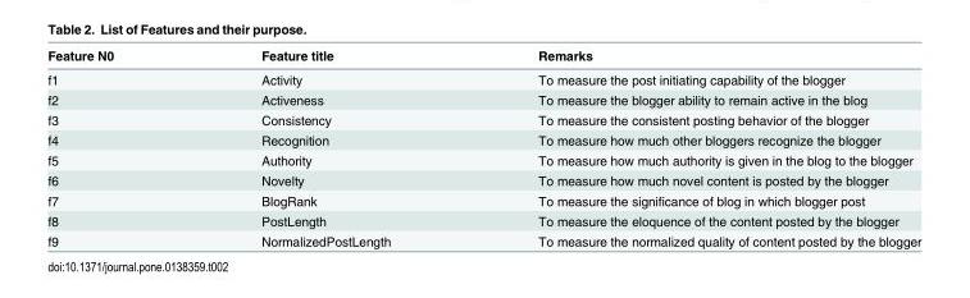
<table><thead><tr><td>Feature N0</td><td>Feature title</td><td>Remarks</td></tr></thead><tbody><tr><td>f1</td><td>Activity</td><td>To measure the post initiating capability of the blogger</td></tr><tr><td>f2</td><td>Activeness</td><td>To measure the blogger ability to remain active in the blog</td></tr><tr><td>f3</td><td>Consistency</td><td>To measure the consistent posting behavior of the blogger</td></tr><tr><td>f4</td><td>Recognition</td><td>To measure how much other bloggers recognize the blogger</td></tr><tr><td>f5</td><td>Authority</td><td>To measure how much authority is given in the blog to the blogger</td></tr><tr><td>f6</td><td>Novelty</td><td>To measure how much novel content is posted by the blogger</td></tr><tr><td>f7</td><td>BlogRank</td><td>To measure the significance of blog in which blogger post</td></tr><tr><td>f8</td><td>PostLength</td><td>To measure the eloquence of the content posted by the blogger</td></tr><tr><td>f9</td><td>NormalizedPostLength</td><td>To measure the normalized quality of content posted by the blogger</td></tr></tbody></table>